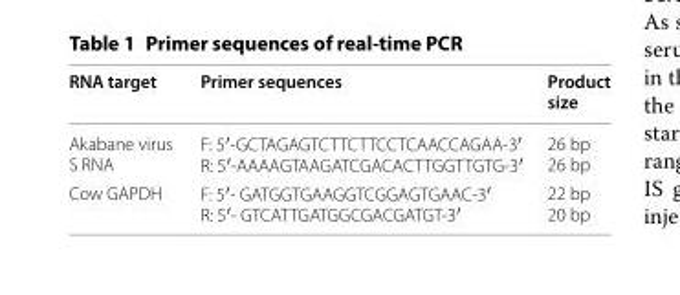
<table><thead><tr><td>RNA target</td><td>Primer sequences</td><td>Product size</td></tr></thead><tbody><tr><td>Akabane virus S RNA</td><td>F: 5′‑GCTAGAGTCTTCTTCCTCAACCAGAA‑3′ R: 5′‑AAAAGTAAGATCGACACTTGGTTGTG‑3′</td><td>26 bp 26 bp</td></tr><tr><td>Cow GAPDH</td><td>F: 5′‑ GATGGTGAAGGTCGGAGTGAAC‑3′ R: 5′‑ GTCATTGATGGCGACGATGT‑3′</td><td>22 bp 20 bp</td></tr></tbody></table>